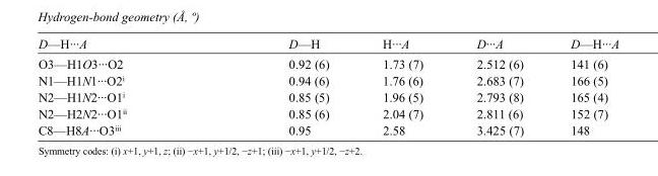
<table><tbody><tr><td>D—H···A</td><td>D—H</td><td>H···A</td><td>D···A</td><td>D—H···A</td></tr><tr><td>O3—H1O3···O2</td><td>0.92 (6)</td><td>1.73 (7)</td><td>2.512 (6)</td><td>141 (6)</td></tr><tr><td>N1—H1N1···O2<sup>i</sup></td><td>0.94 (6)</td><td>1.76 (6)</td><td>2.683 (7)</td><td>166 (5)</td></tr><tr><td>N2—H1N2···O1<sup>i</sup></td><td>0.85 (5)</td><td>1.96 (5)</td><td>2.793 (8)</td><td>165 (4)</td></tr><tr><td>N2—H2N2···O1<sup>ii</sup></td><td>0.85 (6)</td><td>2.04 (7)</td><td>2.811 (6)</td><td>152 (7)</td></tr><tr><td>C8—H8A···O3<sup>iii</sup></td><td>0.95</td><td>2.58</td><td>3.425 (7)</td><td>148</td></tr></tbody></table>